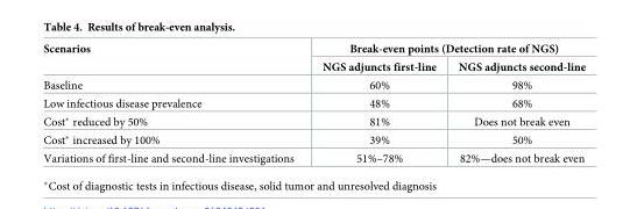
<table><thead><tr><td rowspan="2">Scenarios</td><td colspan="2">Break-even points (Detection rate of NGS)</td></tr><tr><td>NGS adjuncts first-line</td><td>NGS adjuncts second-line</td></tr></thead><tbody><tr><td>Baseline</td><td>60%</td><td>98%</td></tr><tr><td>Low infectious disease prevalence</td><td>48%</td><td>68%</td></tr><tr><td>Cost* reduced by 50%</td><td>81%</td><td>Does not break even</td></tr><tr><td>Cost* increased by 100%</td><td>39%</td><td>50%</td></tr><tr><td>Variations of first-line and second-line investigations</td><td>51%–78%</td><td>82%—does not break even</td></tr></tbody></table>